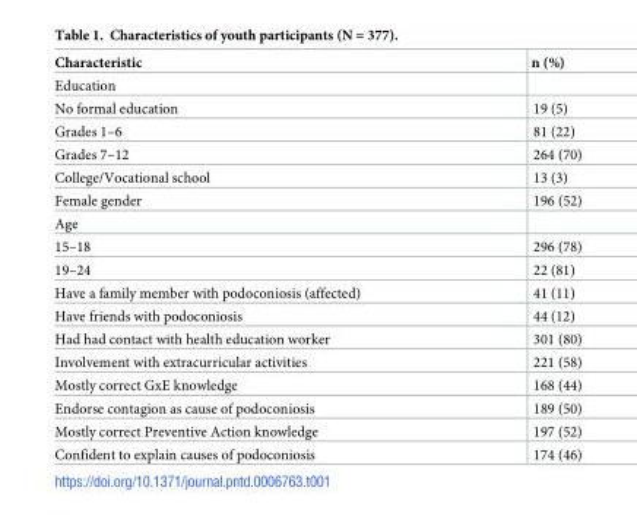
<table><thead><tr><td>Characteristic</td><td>n (%)</td></tr></thead><tbody><tr><td colspan="2">Education</td></tr><tr><td>No formal education</td><td>19 (5)</td></tr><tr><td>Grades 1–6</td><td>81 (22)</td></tr><tr><td>Grades 7–12</td><td>264 (70)</td></tr><tr><td>College/Vocational school</td><td>13 (3)</td></tr><tr><td>Female gender</td><td>196 (52)</td></tr><tr><td colspan="2">Age</td></tr><tr><td>15–18</td><td>296 (78)</td></tr><tr><td>19–24</td><td>22 (81)</td></tr><tr><td>Have a family member with podoconiosis (affected)</td><td>41 (11)</td></tr><tr><td>Have friends with podoconiosis</td><td>44 (12)</td></tr><tr><td>Had had contact with health education worker</td><td>301 (80)</td></tr><tr><td>Involvement with extracurricular activities</td><td>221 (58)</td></tr><tr><td>Mostly correct GxE knowledge</td><td>168 (44)</td></tr><tr><td>Endorse contagion as cause of podoconiosis</td><td>189 (50)</td></tr><tr><td>Mostly correct Preventive Action knowledge</td><td>197 (52)</td></tr><tr><td>Confident to explain causes of podoconiosis</td><td>174 (46)</td></tr></tbody></table>